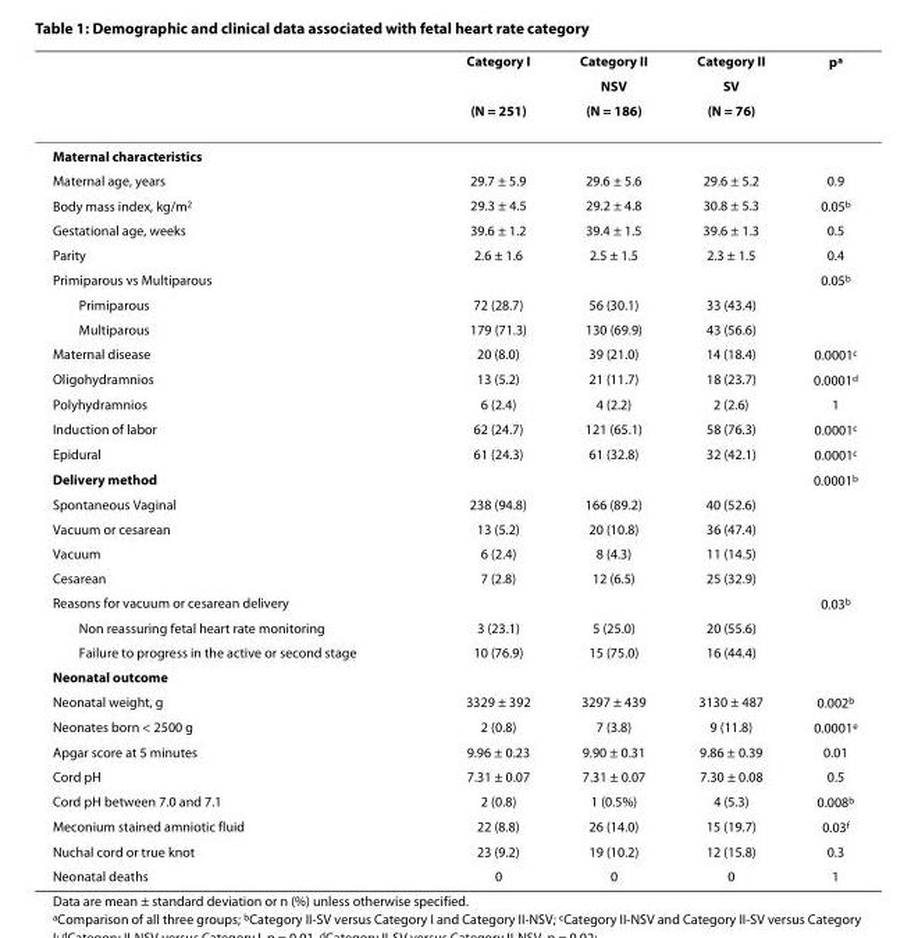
<table><thead><tr><td rowspan="3"></td><td rowspan="3">Category I (N = 251)</td><td rowspan="3">Category II NSV (N = 186)</td><td rowspan="3">Category II SV (N = 76)</td><td rowspan="3">p<sup>a</sup></td></tr><tr></tr><tr></tr></thead><tbody><tr><td colspan="5">Maternal characteristics</td></tr><tr><td>Maternal age, years</td><td>29.7 ± 5.9</td><td>29.6 ± 5.6</td><td>29.6 ± 5.2</td><td>0.9</td></tr><tr><td>Body mass index, kg/m<sup>2</sup></td><td>29.3 ± 4.5</td><td>29.2 ± 4.8</td><td>30.8 ± 5.3</td><td>0.05<sup>b</sup></td></tr><tr><td>Gestational age, weeks</td><td>39.6 ± 1.2</td><td>39.4 ± 1.5</td><td>39.6 ± 1.3</td><td>0.5</td></tr><tr><td>Parity</td><td>2.6 ± 1.6</td><td>2.5 ± 1.5</td><td>2.3 ± 1.5</td><td>0.4</td></tr><tr><td>Primiparous vs Multiparous</td><td></td><td></td><td></td><td>0.05<sup>b</sup></td></tr><tr><td>Primiparous</td><td>72 (28.7)</td><td>56 (30.1)</td><td>33 (43.4)</td><td></td></tr><tr><td>Multiparous</td><td>179 (71.3)</td><td>130 (69.9)</td><td>43 (56.6)</td><td></td></tr><tr><td>Maternal disease</td><td>20 (8.0)</td><td>39 (21.0)</td><td>14 (18.4)</td><td>0.0001<sup>c</sup></td></tr><tr><td>Oligohydramnios</td><td>13 (5.2)</td><td>21 (11.7)</td><td>18 (23.7)</td><td>0.0001<sup>d</sup></td></tr><tr><td>Polyhydramnios</td><td>6 (2.4)</td><td>4 (2.2)</td><td>2 (2.6)</td><td>1</td></tr><tr><td>Induction of labor</td><td>62 (24.7)</td><td>121 (65.1)</td><td>58 (76.3)</td><td>0.0001<sup>c</sup></td></tr><tr><td>Epidural</td><td>61 (24.3)</td><td>61 (32.8)</td><td>32 (42.1)</td><td>0.0001<sup>c</sup></td></tr><tr><td>Delivery method</td><td></td><td></td><td></td><td>0.0001<sup>b</sup></td></tr><tr><td>Spontaneous Vaginal</td><td>238 (94.8)</td><td>166 (89.2)</td><td>40 (52.6)</td><td></td></tr><tr><td>Vacuum or cesarean</td><td>13 (5.2)</td><td>20 (10.8)</td><td>36 (47.4)</td><td></td></tr><tr><td>Vacuum</td><td>6 (2.4)</td><td>8 (4.3)</td><td>11 (14.5)</td><td></td></tr><tr><td>Cesarean</td><td>7 (2.8)</td><td>12 (6.5)</td><td>25 (32.9)</td><td></td></tr><tr><td>Reasons for vacuum or cesarean delivery</td><td></td><td></td><td></td><td>0.03<sup>b</sup></td></tr><tr><td>Non reassuring fetal heart rate monitoring</td><td>3 (23.1)</td><td>5 (25.0)</td><td>20 (55.6)</td><td></td></tr><tr><td>Failure to progress in the active or second stage</td><td>10 (76.9)</td><td>15 (75.0)</td><td>16 (44.4)</td><td></td></tr><tr><td colspan="5">Neonatal outcome</td></tr><tr><td>Neonatal weight, g</td><td>3329 ± 392</td><td>3297 ± 439</td><td>3130 ± 487</td><td>0.002<sup>b</sup></td></tr><tr><td>Neonates born &lt; 2500 g</td><td>2 (0.8)</td><td>7 (3.8)</td><td>9 (11.8)</td><td>0.0001<sup>e</sup></td></tr><tr><td>Apgar score at 5 minutes</td><td>9.96 ± 0.23</td><td>9.90 ± 0.31</td><td>9.86 ± 0.39</td><td>0.01</td></tr><tr><td>Cord pH</td><td>7.31 ± 0.07</td><td>7.31 ± 0.07</td><td>7.30 ± 0.08</td><td>0.5</td></tr><tr><td>Cord pH between 7.0 and 7.1</td><td>2 (0.8)</td><td>1 (0.5%)</td><td>4 (5.3)</td><td>0.008<sup>b</sup></td></tr><tr><td>Meconium stained amniotic fluid</td><td>22 (8.8)</td><td>26 (14.0)</td><td>15 (19.7)</td><td>0.03<sup>f</sup></td></tr><tr><td>Nuchal cord or true knot</td><td>23 (9.2)</td><td>19 (10.2)</td><td>12 (15.8)</td><td>0.3</td></tr><tr><td>Neonatal deaths</td><td>0</td><td>0</td><td>0</td><td>1</td></tr></tbody></table>